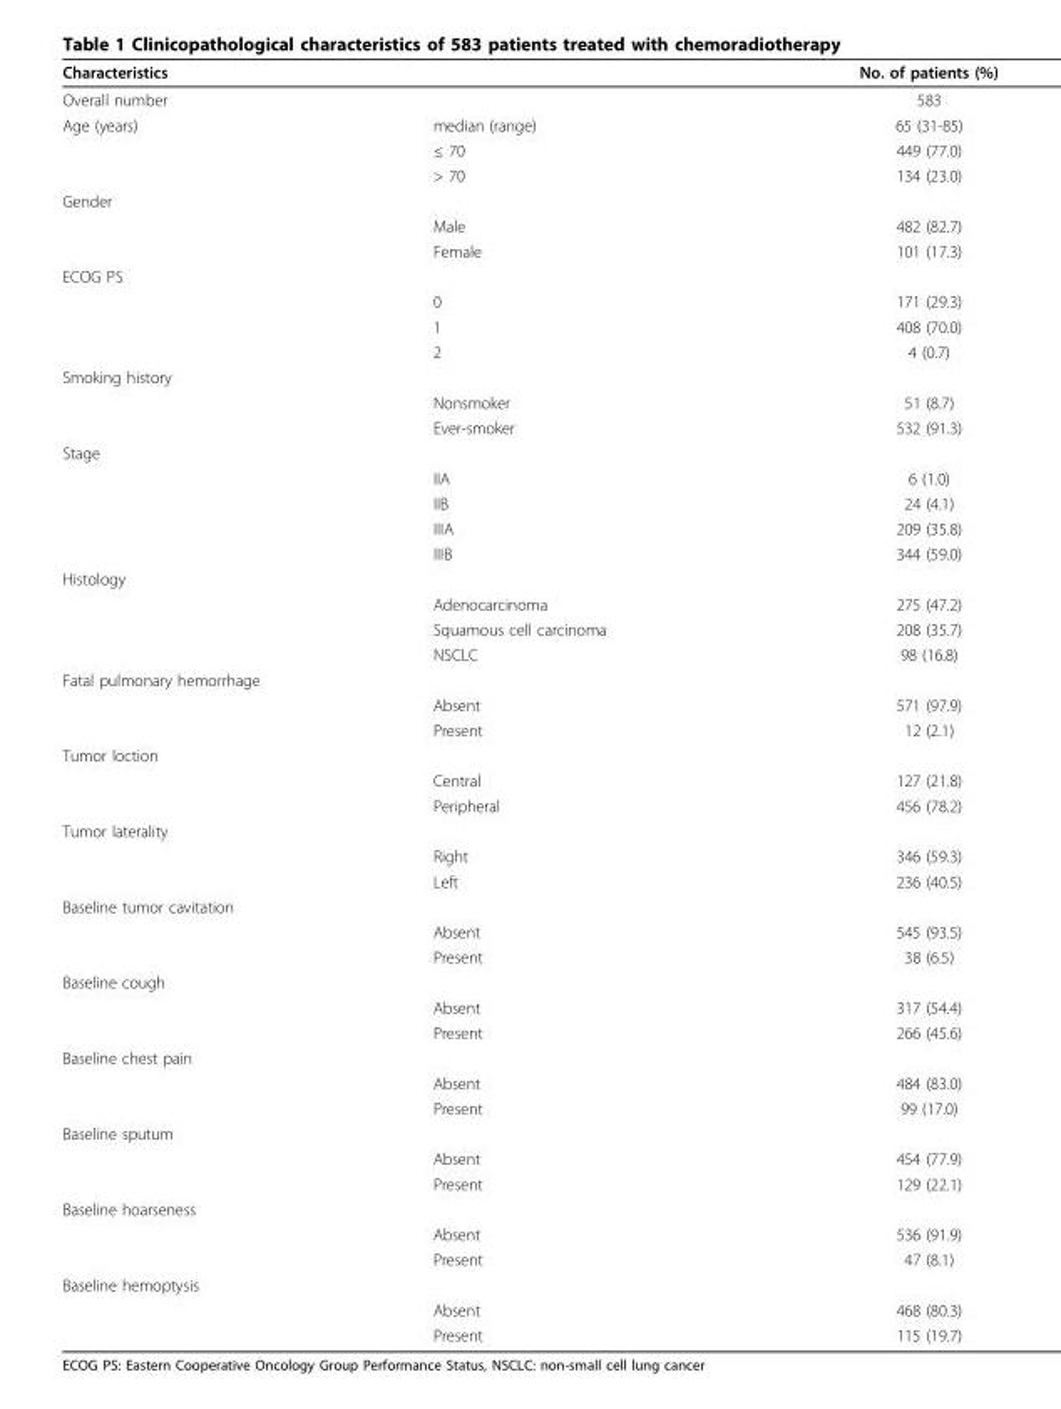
<table><thead><tr><td>Characteristics</td><td></td><td>No. of patients (%)</td></tr></thead><tbody><tr><td colspan="2">Overall number</td><td>583</td></tr><tr><td rowspan="3">Age (years)</td><td>median (range)</td><td>65 (31-85)</td></tr><tr><td>≤ 70</td><td>449 (77.0)</td></tr><tr><td>&gt; 70</td><td>134 (23.0)</td></tr><tr><td colspan="3">Gender</td></tr><tr><td></td><td>Male</td><td>482 (82.7)</td></tr><tr><td></td><td>Female</td><td>101 (17.3)</td></tr><tr><td colspan="3">ECOG PS</td></tr><tr><td></td><td>0</td><td>171 (29.3)</td></tr><tr><td></td><td>1</td><td>408 (70.0)</td></tr><tr><td></td><td>2</td><td>4 (0.7)</td></tr><tr><td colspan="3">Smoking history</td></tr><tr><td></td><td>Nonsmoker</td><td>51 (8.7)</td></tr><tr><td></td><td>Ever-smoker</td><td>532 (91.3)</td></tr><tr><td colspan="3">Stage</td></tr><tr><td></td><td>IIA</td><td>6 (1.0)</td></tr><tr><td></td><td>IIB</td><td>24 (4.1)</td></tr><tr><td></td><td>IIIA</td><td>209 (35.8)</td></tr><tr><td></td><td>IIIB</td><td>344 (59.0)</td></tr><tr><td colspan="3">Histology</td></tr><tr><td></td><td>Adenocarcinoma</td><td>275 (47.2)</td></tr><tr><td></td><td>Squamous cell carcinoma</td><td>208 (35.7)</td></tr><tr><td></td><td>NSCLC</td><td>98 (16.8)</td></tr><tr><td colspan="3">Fatal pulmonary hemorrhage</td></tr><tr><td></td><td>Absent</td><td>571 (97.9)</td></tr><tr><td></td><td>Present</td><td>12 (2.1)</td></tr><tr><td colspan="3">Tumor loction</td></tr><tr><td></td><td>Central</td><td>127 (21.8)</td></tr><tr><td></td><td>Peripheral</td><td>456 (78.2)</td></tr><tr><td colspan="3">Tumor laterality</td></tr><tr><td></td><td>Right</td><td>346 (59.3)</td></tr><tr><td></td><td>Left</td><td>236 (40.5)</td></tr><tr><td colspan="3">Baseline tumor cavitation</td></tr><tr><td></td><td>Absent</td><td>545 (93.5)</td></tr><tr><td></td><td>Present</td><td>38 (6.5)</td></tr><tr><td colspan="3">Baseline cough</td></tr><tr><td></td><td>Absent</td><td>317 (54.4)</td></tr><tr><td></td><td>Present</td><td>266 (45.6)</td></tr><tr><td colspan="3">Baseline chest pain</td></tr><tr><td></td><td>Absent</td><td>484 (83.0)</td></tr><tr><td></td><td>Present</td><td>99 (17.0)</td></tr><tr><td colspan="3">Baseline sputum</td></tr><tr><td></td><td>Absent</td><td>454 (77.9)</td></tr><tr><td></td><td>Present</td><td>129 (22.1)</td></tr><tr><td colspan="3">Baseline hoarseness</td></tr><tr><td></td><td>Absent</td><td>536 (91.9)</td></tr><tr><td></td><td>Present</td><td>47 (8.1)</td></tr><tr><td colspan="3">Baseline hemoptysis</td></tr><tr><td></td><td>Absent</td><td>468 (80.3)</td></tr><tr><td></td><td>Present</td><td>115 (19.7)</td></tr></tbody></table>